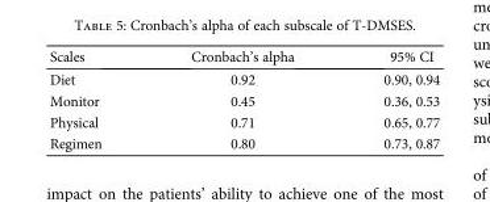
<table><thead><tr><td>Scales</td><td>Cronbach’s alpha</td><td>95% CI</td></tr></thead><tbody><tr><td>Diet</td><td>0.92</td><td>0.90, 0.94</td></tr><tr><td>Monitor</td><td>0.45</td><td>0.36, 0.53</td></tr><tr><td>Physical</td><td>0.71</td><td>0.65, 0.77</td></tr><tr><td>Regimen</td><td>0.80</td><td>0.73, 0.87</td></tr></tbody></table>